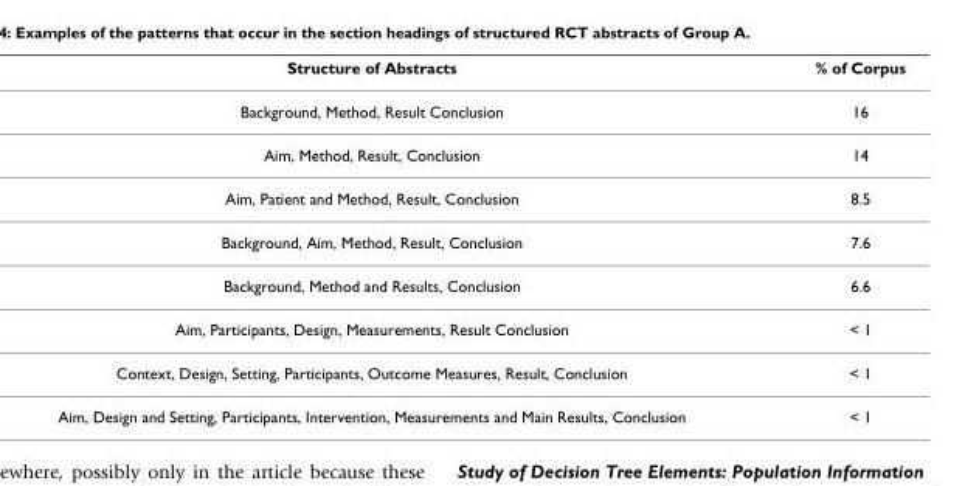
<table><thead><tr><td>Structure of Abstracts</td><td>% of Corpus</td></tr></thead><tbody><tr><td>Background, Method, Result Conclusion</td><td>16</td></tr><tr><td>Aim, Method, Result, Conclusion</td><td>14</td></tr><tr><td>Aim, Patient and Method, Result, Conclusion</td><td>8.5</td></tr><tr><td>Background, Aim, Method, Result, Conclusion</td><td>7.6</td></tr><tr><td>Background, Method and Results, Conclusion</td><td>6.6</td></tr><tr><td>Aim, Participants, Design, Measurements, Result Conclusion</td><td>&lt; 1</td></tr><tr><td>Context, Design, Setting, Participants, Outcome Measures, Result, Conclusion</td><td>&lt; 1</td></tr><tr><td>Aim, Design and Setting, Participants, Intervention, Measurements and Main Results, Conclusion</td><td>&lt; 1</td></tr></tbody></table>